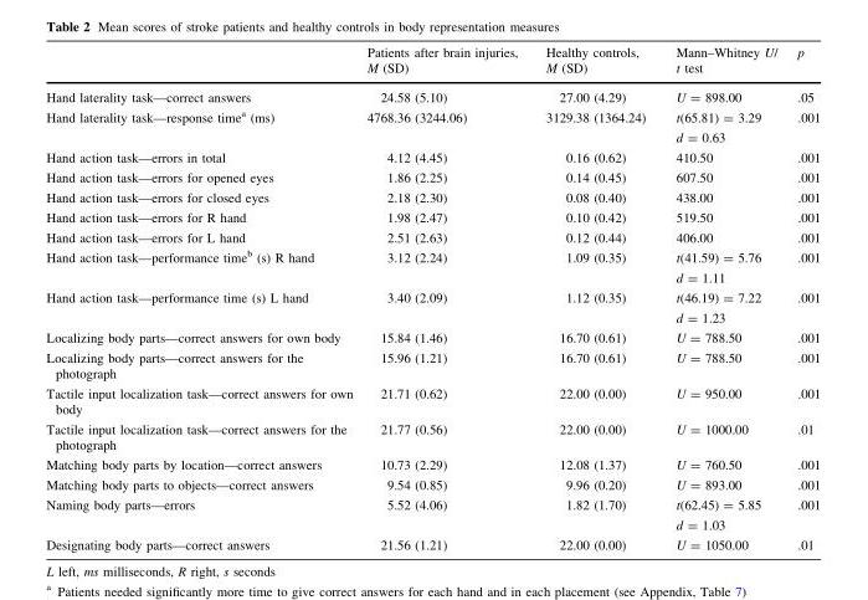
<table><thead><tr><td></td><td>Patients after brain injuries, M (SD)</td><td>Healthy controls, M (SD)</td><td>Mann–Whitney U/ t test</td><td>p</td></tr></thead><tbody><tr><td>Hand laterality task—correct answers</td><td>24.58 (5.10)</td><td>27.00 (4.29)</td><td>U = 898.00</td><td>.05</td></tr><tr><td>Hand laterality task—response time<sup>a</sup> (ms)</td><td>4768.36 (3244.06)</td><td>3129.38 (1364.24)</td><td>t(65.81) = 3.29 d = 0.63</td><td>.001</td></tr><tr><td>Hand action task—errors in total</td><td>4.12 (4.45)</td><td>0.16 (0.62)</td><td>410.50</td><td>.001</td></tr><tr><td>Hand action task—errors for opened eyes</td><td>1.86 (2.25)</td><td>0.14 (0.45)</td><td>607.50</td><td>.001</td></tr><tr><td>Hand action task—errors for closed eyes</td><td>2.18 (2.30)</td><td>0.08 (0.40)</td><td>438.00</td><td>.001</td></tr><tr><td>Hand action task—errors for R hand</td><td>1.98 (2.47)</td><td>0.10 (0.42)</td><td>519.50</td><td>.001</td></tr><tr><td>Hand action task—errors for L hand</td><td>2.51 (2.63)</td><td>0.12 (0.44)</td><td>406.00</td><td>.001</td></tr><tr><td>Hand action task—performance time<sup>b</sup> (s) R hand</td><td>3.12 (2.24)</td><td>1.09 (0.35)</td><td>t(41.59) = 5.76 d = 1.11</td><td>.001</td></tr><tr><td>Hand action task—performance time (s) L hand</td><td>3.40 (2.09)</td><td>1.12 (0.35)</td><td>t(46.19) = 7.22 d = 1.23</td><td>.001</td></tr><tr><td>Localizing body parts—correct answers for own body</td><td>15.84 (1.46)</td><td>16.70 (0.61)</td><td>U = 788.50</td><td>.001</td></tr><tr><td>Localizing body parts—correct answers for the photograph</td><td>15.96 (1.21)</td><td>16.70 (0.61)</td><td>U = 788.50</td><td>.001</td></tr><tr><td>Tactile input localization task—correct answers for own body</td><td>21.71 (0.62)</td><td>22.00 (0.00)</td><td>U = 950.00</td><td>.001</td></tr><tr><td>Tactile input localization task—correct answers for the photograph</td><td>21.77 (0.56)</td><td>22.00 (0.00)</td><td>U = 1000.00</td><td>.01</td></tr><tr><td>Matching body parts by location—correct answers</td><td>10.73 (2.29)</td><td>12.08 (1.37)</td><td>U = 760.50</td><td>.001</td></tr><tr><td>Matching body parts to objects—correct answers</td><td>9.54 (0.85)</td><td>9.96 (0.20)</td><td>U = 893.00</td><td>.001</td></tr><tr><td>Naming body parts—errors</td><td>5.52 (4.06)</td><td>1.82 (1.70)</td><td>t(62.45) = 5.85 d = 1.03</td><td>.001</td></tr><tr><td>Designating body parts—correct answers</td><td>21.56 (1.21)</td><td>22.00 (0.00)</td><td>U = 1050.00</td><td>.01</td></tr></tbody></table>